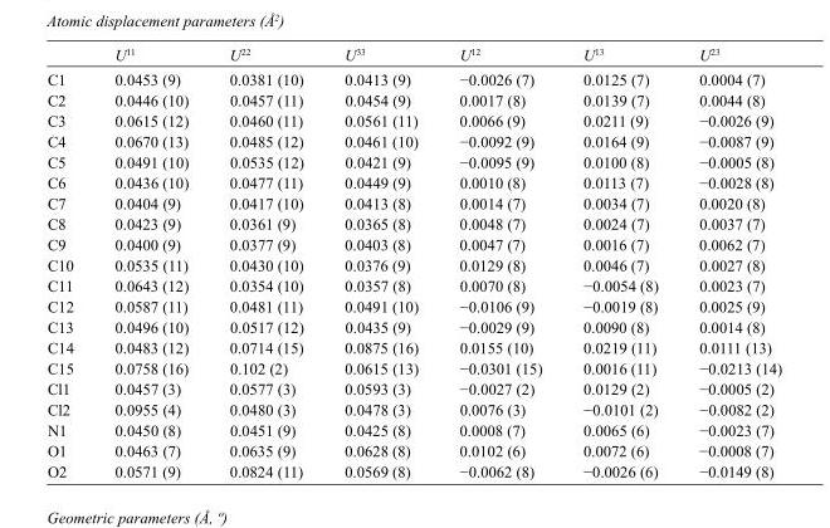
<table><thead><tr><td></td><td>U<sup>11</sup></td><td>U<sup>22</sup></td><td>U<sup>33</sup></td><td>U<sup>12</sup></td><td>U<sup>13</sup></td><td>U<sup>23</sup></td></tr></thead><tbody><tr><td>C1</td><td>0.0453 (9)</td><td>0.0381 (10)</td><td>0.0413 (9)</td><td>−0.0026 (7)</td><td>0.0125 (7)</td><td>0.0004 (7)</td></tr><tr><td>C2</td><td>0.0446 (10)</td><td>0.0457 (11)</td><td>0.0454 (9)</td><td>0.0017 (8)</td><td>0.0139 (7)</td><td>0.0044 (8)</td></tr><tr><td>C3</td><td>0.0615 (12)</td><td>0.0460 (11)</td><td>0.0561 (11)</td><td>0.0066 (9)</td><td>0.0211 (9)</td><td>−0.0026 (9)</td></tr><tr><td>C4</td><td>0.0670 (13)</td><td>0.0485 (12)</td><td>0.0461 (10)</td><td>−0.0092 (9)</td><td>0.0164 (9)</td><td>−0.0087 (9)</td></tr><tr><td>C5</td><td>0.0491 (10)</td><td>0.0535 (12)</td><td>0.0421 (9)</td><td>−0.0095 (9)</td><td>0.0100 (8)</td><td>−0.0005 (8)</td></tr><tr><td>C6</td><td>0.0436 (10)</td><td>0.0477 (11)</td><td>0.0449 (9)</td><td>0.0010 (8)</td><td>0.0113 (7)</td><td>−0.0028 (8)</td></tr><tr><td>C7</td><td>0.0404 (9)</td><td>0.0417 (10)</td><td>0.0413 (8)</td><td>0.0014 (7)</td><td>0.0034 (7)</td><td>0.0020 (8)</td></tr><tr><td>C8</td><td>0.0423 (9)</td><td>0.0361 (9)</td><td>0.0365 (8)</td><td>0.0048 (7)</td><td>0.0024 (7)</td><td>0.0037 (7)</td></tr><tr><td>C9</td><td>0.0400 (9)</td><td>0.0377 (9)</td><td>0.0403 (8)</td><td>0.0047 (7)</td><td>0.0016 (7)</td><td>0.0062 (7)</td></tr><tr><td>C10</td><td>0.0535 (11)</td><td>0.0430 (10)</td><td>0.0376 (9)</td><td>0.0129 (8)</td><td>0.0046 (7)</td><td>0.0027 (8)</td></tr><tr><td>C11</td><td>0.0643 (12)</td><td>0.0354 (10)</td><td>0.0357 (8)</td><td>0.0070 (8)</td><td>−0.0054 (8)</td><td>0.0023 (7)</td></tr><tr><td>C12</td><td>0.0587 (11)</td><td>0.0481 (11)</td><td>0.0491 (10)</td><td>−0.0106 (9)</td><td>−0.0019 (8)</td><td>0.0025 (9)</td></tr><tr><td>C13</td><td>0.0496 (10)</td><td>0.0517 (12)</td><td>0.0435 (9)</td><td>−0.0029 (9)</td><td>0.0090 (8)</td><td>0.0014 (8)</td></tr><tr><td>C14</td><td>0.0483 (12)</td><td>0.0714 (15)</td><td>0.0875 (16)</td><td>0.0155 (10)</td><td>0.0219 (11)</td><td>0.0111 (13)</td></tr><tr><td>C15</td><td>0.0758 (16)</td><td>0.102 (2)</td><td>0.0615 (13)</td><td>−0.0301 (15)</td><td>0.0016 (11)</td><td>−0.0213 (14)</td></tr><tr><td>Cl1</td><td>0.0457 (3)</td><td>0.0577 (3)</td><td>0.0593 (3)</td><td>−0.0027 (2)</td><td>0.0129 (2)</td><td>−0.0005 (2)</td></tr><tr><td>Cl2</td><td>0.0955 (4)</td><td>0.0480 (3)</td><td>0.0478 (3)</td><td>0.0076 (3)</td><td>−0.0101 (2)</td><td>−0.0082 (2)</td></tr><tr><td>N1</td><td>0.0450 (8)</td><td>0.0451 (9)</td><td>0.0425 (8)</td><td>0.0008 (7)</td><td>0.0065 (6)</td><td>−0.0023 (7)</td></tr><tr><td>O1</td><td>0.0463 (7)</td><td>0.0635 (9)</td><td>0.0628 (8)</td><td>0.0102 (6)</td><td>0.0072 (6)</td><td>−0.0008 (7)</td></tr><tr><td>O2</td><td>0.0571 (9)</td><td>0.0824 (11)</td><td>0.0569 (8)</td><td>−0.0062 (8)</td><td>−0.0026 (6)</td><td>−0.0149 (8)</td></tr></tbody></table>